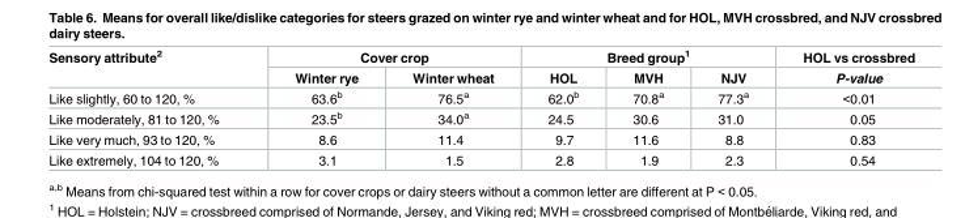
<table><thead><tr><td rowspan="2">Sensory attribute<sup>2</sup></td><td colspan="2">Cover crop</td><td colspan="3">Breed group<sup>1</sup></td><td rowspan="2">HOL vs crossbred P-value</td></tr><tr><td>Winter rye</td><td>Winter wheat</td><td>HOL</td><td>MVH</td><td>NJV</td></tr></thead><tbody><tr><td>Like slightly, 60 to 120, %</td><td>63.6<sup>b</sup></td><td>76.5<sup>a</sup></td><td>62.0<sup>b</sup></td><td>70.8<sup>a</sup></td><td>77.3<sup>a</sup></td><td>&lt;0.01</td></tr><tr><td>Like moderately, 81 to 120, %</td><td>23.5<sup>b</sup></td><td>34.0<sup>a</sup></td><td>24.5</td><td>30.6</td><td>31.0</td><td>0.05</td></tr><tr><td>Like very much, 93 to 120, %</td><td>8.6</td><td>11.4</td><td>9.7</td><td>11.6</td><td>8.8</td><td>0.83</td></tr><tr><td>Like extremely, 104 to 120, %</td><td>3.1</td><td>1.5</td><td>2.8</td><td>1.9</td><td>2.3</td><td>0.54</td></tr></tbody></table>